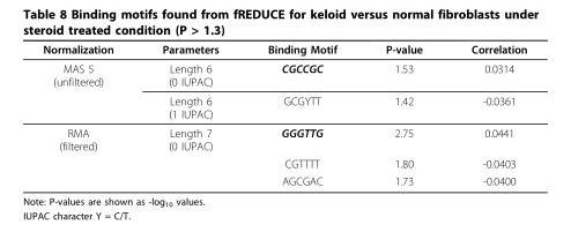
<table><thead><tr><td>Normalization</td><td>Parameters</td><td>Binding Motif</td><td>P-value</td><td>Correlation</td></tr></thead><tbody><tr><td rowspan="2">MAS 5 (unfiltered)</td><td>Length 6 (0 IUPAC)</td><td>CGCCGC</td><td>1.53</td><td>0.0314</td></tr><tr><td>Length 6 (1 IUPAC)</td><td>GCGYTT</td><td>1.42</td><td>-0.0361</td></tr><tr><td rowspan="3">RMA (filtered)</td><td>Length 7 (0 IUPAC)</td><td>GGGTTG</td><td>2.75</td><td>0.0441</td></tr><tr><td></td><td>CGTTTT</td><td>1.80</td><td>-0.0403</td></tr><tr><td></td><td>AGCGAC</td><td>1.73</td><td>-0.0400</td></tr></tbody></table>